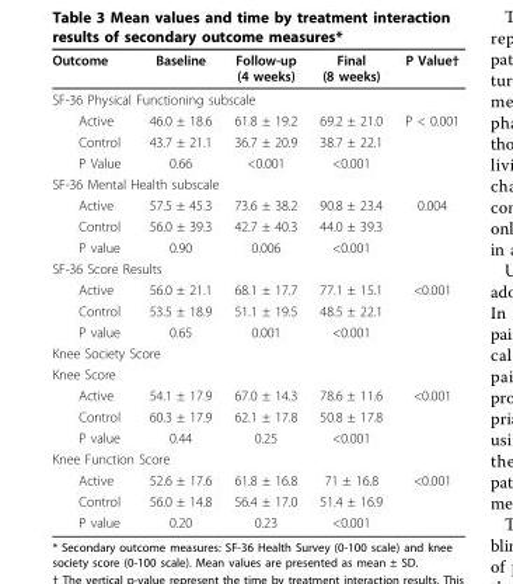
<table><thead><tr><td>Outcome</td><td>Baseline</td><td>Follow-up (4 weeks)</td><td>Final (8 weeks)</td><td>P Value†</td></tr></thead><tbody><tr><td colspan="5">SF-36 Physical Functioning subscale</td></tr><tr><td>Active</td><td>46.0 ± 18.6</td><td>61.8 ± 19.2</td><td>69.2 ± 21.0</td><td>P &lt; 0.001</td></tr><tr><td>Control</td><td>43.7 ± 21.1</td><td>36.7 ± 20.9</td><td>38.7 ± 22.1</td><td></td></tr><tr><td>P Value</td><td>0.66</td><td>&lt;0.001</td><td>&lt;0.001</td><td></td></tr><tr><td colspan="5">SF-36 Mental Health subscale</td></tr><tr><td>Active</td><td>57.5 ± 45.3</td><td>73.6 ± 38.2</td><td>90.8 ± 23.4</td><td>0.004</td></tr><tr><td>Control</td><td>56.0 ± 39.3</td><td>42.7 ± 40.3</td><td>44.0 ± 39.3</td><td></td></tr><tr><td>P value</td><td>0.90</td><td>0.006</td><td>&lt;0.001</td><td></td></tr><tr><td colspan="5">SF-36 Score Results</td></tr><tr><td>Active</td><td>56.0 ± 21.1</td><td>68.1 ± 17.7</td><td>77.1 ± 15.1</td><td>&lt;0.001</td></tr><tr><td>Control</td><td>53.5 ± 18.9</td><td>51.1 ± 19.5</td><td>48.5 ± 22.1</td><td></td></tr><tr><td>P value</td><td>0.65</td><td>0.001</td><td>&lt;0.001</td><td></td></tr><tr><td colspan="5">Knee Society Score</td></tr><tr><td colspan="5">Knee Score</td></tr><tr><td>Active</td><td>54.1 ± 17.9</td><td>67.0 ± 14.3</td><td>78.6 ± 11.6</td><td>&lt;0.001</td></tr><tr><td>Control</td><td>60.3 ± 17.9</td><td>62.1 ± 17.8</td><td>50.8 ± 17.8</td><td></td></tr><tr><td>P value</td><td>0.44</td><td>0.25</td><td>&lt;0.001</td><td></td></tr><tr><td colspan="5">Knee Function Score</td></tr><tr><td>Active</td><td>52.6 ± 17.6</td><td>61.8 ± 16.8</td><td>71 ± 16.8</td><td>&lt;0.001</td></tr><tr><td>Control</td><td>56.0 ± 14.8</td><td>56.4 ± 17.0</td><td>51.4 ± 16.9</td><td></td></tr><tr><td>P value</td><td>0.20</td><td>0.23</td><td>&lt;0.001</td><td></td></tr></tbody></table>